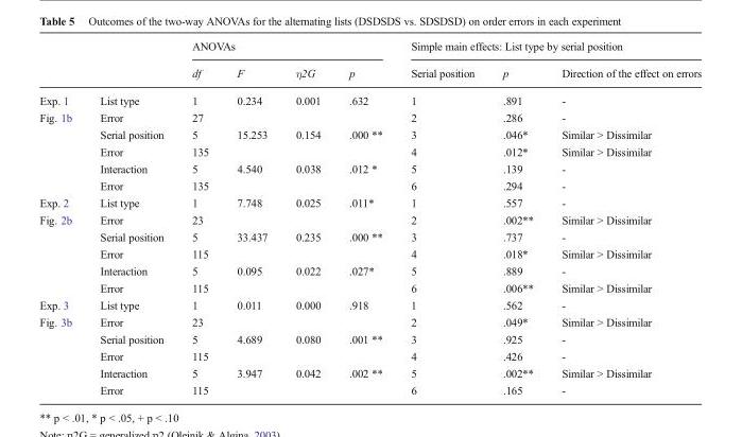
<table><thead><tr><td rowspan="2"></td><td rowspan="2"></td><td colspan="4">ANOVAs</td><td colspan="3">Simple main effects: List type by serial position</td></tr><tr><td>df</td><td>F</td><td>η2G</td><td>p</td><td>Serial position</td><td>p</td><td>Direction of the effect on errors</td></tr></thead><tbody><tr><td>Exp. 1</td><td>List type</td><td>1</td><td>0.234</td><td>0.001</td><td>.632</td><td>1</td><td>.891</td><td>-</td></tr><tr><td rowspan="5">Fig. 1b</td><td>Error</td><td>27</td><td></td><td></td><td></td><td>2</td><td>.286</td><td>-</td></tr><tr><td>Serial position</td><td>5</td><td>15.253</td><td>0.154</td><td>.000 **</td><td>3</td><td>.046*</td><td>Similar &gt; Dissimilar</td></tr><tr><td>Error</td><td>135</td><td></td><td></td><td></td><td>4</td><td>.012*</td><td>Similar &gt; Dissimilar</td></tr><tr><td>Interaction</td><td>5</td><td>4.540</td><td>0.038</td><td>.012 *</td><td>5</td><td>.139</td><td>-</td></tr><tr><td>Error</td><td>135</td><td></td><td></td><td></td><td>6</td><td>.294</td><td>-</td></tr><tr><td>Exp. 2</td><td>List type</td><td>1</td><td>7.748</td><td>0.025</td><td>.011*</td><td>1</td><td>.557</td><td>-</td></tr><tr><td rowspan="5">Fig. 2b</td><td>Error</td><td>23</td><td></td><td></td><td></td><td>2</td><td>.002**</td><td>Similar &gt; Dissimilar</td></tr><tr><td>Serial position</td><td>5</td><td>33.437</td><td>0.235</td><td>.000 **</td><td>3</td><td>.737</td><td>-</td></tr><tr><td>Error</td><td>115</td><td></td><td></td><td></td><td>4</td><td>.018*</td><td>Similar &gt; Dissimilar</td></tr><tr><td>Interaction</td><td>5</td><td>0.095</td><td>0.022</td><td>.027*</td><td>5</td><td>.889</td><td>-</td></tr><tr><td>Error</td><td>115</td><td></td><td></td><td></td><td>6</td><td>.006**</td><td>Similar &gt; Dissimilar</td></tr><tr><td>Exp. 3</td><td>List type</td><td>1</td><td>0.011</td><td>0.000</td><td>.918</td><td>1</td><td>.562</td><td>-</td></tr><tr><td rowspan="5">Fig. 3b</td><td>Error</td><td>23</td><td></td><td></td><td></td><td>2</td><td>.049*</td><td>Similar &gt; Dissimilar</td></tr><tr><td>Serial position</td><td>5</td><td>4.689</td><td>0.080</td><td>.001 **</td><td>3</td><td>.925</td><td>-</td></tr><tr><td>Error</td><td>115</td><td></td><td></td><td></td><td>4</td><td>.426</td><td>-</td></tr><tr><td>Interaction</td><td>5</td><td>3.947</td><td>0.042</td><td>.002 **</td><td>5</td><td>.002**</td><td>Similar &gt; Dissimilar</td></tr><tr><td>Error</td><td>115</td><td></td><td></td><td></td><td>6</td><td>.165</td><td>-</td></tr></tbody></table>